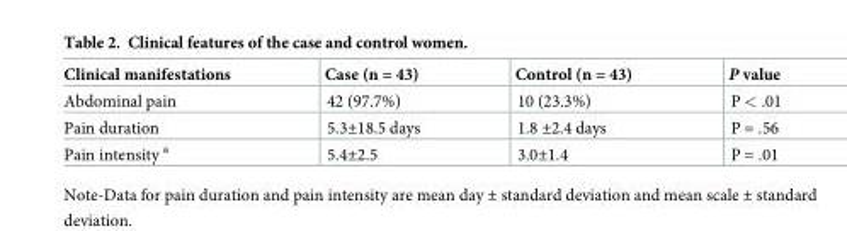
<table><thead><tr><td>Clinical manifestations</td><td>Case (n = 43)</td><td>Control (n = 43)</td><td>P value</td></tr></thead><tbody><tr><td>Abdominal pain</td><td>42 (97.7%)</td><td>10 (23.3%)</td><td>P &lt; .01</td></tr><tr><td>Pain duration</td><td>5.3±18.5 days</td><td>1.8 ±2.4 days</td><td>P = .56</td></tr><tr><td>Pain intensity <sup>a</sup></td><td>5.4±2.5</td><td>3.0±1.4</td><td>P = .01</td></tr></tbody></table>